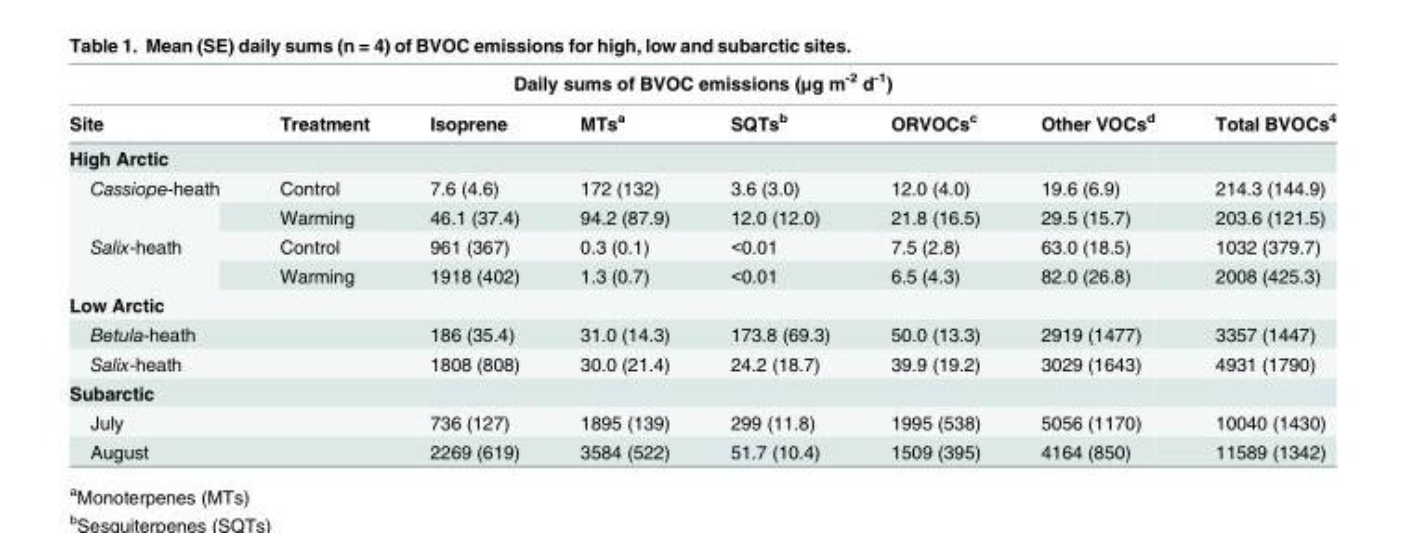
<table><thead><tr><td colspan="8">Daily sums of BVOC emissions (μg m<sup>-2</sup> d<sup>-1</sup>)</td></tr><tr><td>Site</td><td>Treatment</td><td>Isoprene</td><td>MTs<sup>a</sup></td><td>SQTs<sup>b</sup></td><td>ORVOCs<sup>c</sup></td><td>Other VOCs<sup>d</sup></td><td>Total BVOCs<sup>4</sup></td></tr></thead><tbody><tr><td colspan="8">High Arctic</td></tr><tr><td rowspan="2">Cassiope-heath</td><td>Control</td><td>7.6 (4.6)</td><td>172 (132)</td><td>3.6 (3.0)</td><td>12.0 (4.0)</td><td>19.6 (6.9)</td><td>214.3 (144.9)</td></tr><tr><td>Warming</td><td>46.1 (37.4)</td><td>94.2 (87.9)</td><td>12.0 (12.0)</td><td>21.8 (16.5)</td><td>29.5 (15.7)</td><td>203.6 (121.5)</td></tr><tr><td rowspan="2">Salix-heath</td><td>Control</td><td>961 (367)</td><td>0.3 (0.1)</td><td>&lt;0.01</td><td>7.5 (2.8)</td><td>63.0 (18.5)</td><td>1032 (379.7)</td></tr><tr><td>Warming</td><td>1918 (402)</td><td>1.3 (0.7)</td><td>&lt;0.01</td><td>6.5 (4.3)</td><td>82.0 (26.8)</td><td>2008 (425.3)</td></tr><tr><td colspan="8">Low Arctic</td></tr><tr><td>Betula-heath</td><td></td><td>186 (35.4)</td><td>31.0 (14.3)</td><td>173.8 (69.3)</td><td>50.0 (13.3)</td><td>2919 (1477)</td><td>3357 (1447)</td></tr><tr><td>Salix-heath</td><td></td><td>1808 (808)</td><td>30.0 (21.4)</td><td>24.2 (18.7)</td><td>39.9 (19.2)</td><td>3029 (1643)</td><td>4931 (1790)</td></tr><tr><td colspan="8">Subarctic</td></tr><tr><td>July</td><td></td><td>736 (127)</td><td>1895 (139)</td><td>299 (11.8)</td><td>1995 (538)</td><td>5056 (1170)</td><td>10040 (1430)</td></tr><tr><td>August</td><td></td><td>2269 (619)</td><td>3584 (522)</td><td>51.7 (10.4)</td><td>1509 (395)</td><td>4164 (850)</td><td>11589 (1342)</td></tr></tbody></table>